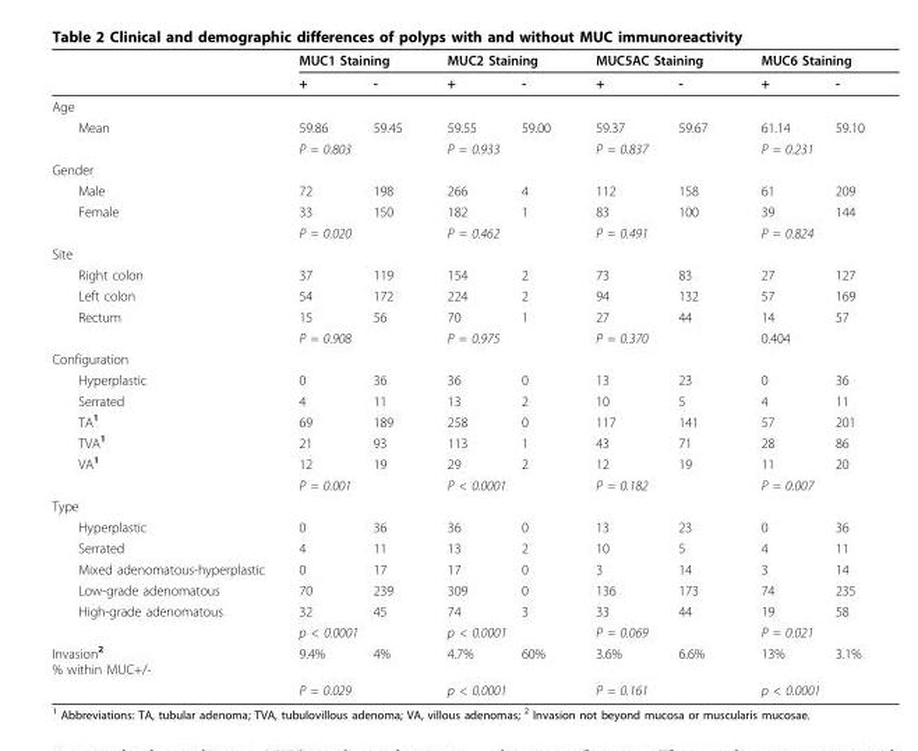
<table><thead><tr><td rowspan="2"></td><td colspan="2">MUC1 Staining</td><td colspan="2">MUC2 Staining</td><td colspan="2">MUC5AC Staining</td><td colspan="2">MUC6 Staining</td></tr><tr><td>+</td><td>-</td><td>+</td><td>-</td><td>+</td><td>-</td><td>+</td><td>-</td></tr></thead><tbody><tr><td colspan="9">Age</td></tr><tr><td rowspan="2">Mean</td><td>59.86</td><td>59.45</td><td>59.55</td><td>59.00</td><td>59.37</td><td>59.67</td><td>61.14</td><td>59.10</td></tr><tr><td colspan="2">P = 0.803</td><td colspan="2">P = 0.933</td><td colspan="2">P = 0.837</td><td colspan="2">P = 0.231</td></tr><tr><td colspan="9">Gender</td></tr><tr><td>Male</td><td>72</td><td>198</td><td>266</td><td>4</td><td>112</td><td>158</td><td>61</td><td>209</td></tr><tr><td rowspan="2">Female</td><td>33</td><td>150</td><td>182</td><td>1</td><td>83</td><td>100</td><td>39</td><td>144</td></tr><tr><td colspan="2">P = 0.020</td><td colspan="2">P = 0.462</td><td colspan="2">P = 0.491</td><td colspan="2">P = 0.824</td></tr><tr><td colspan="9">Site</td></tr><tr><td>Right colon</td><td>37</td><td>119</td><td>154</td><td>2</td><td>73</td><td>83</td><td>27</td><td>127</td></tr><tr><td>Left colon</td><td>54</td><td>172</td><td>224</td><td>2</td><td>94</td><td>132</td><td>57</td><td>169</td></tr><tr><td rowspan="2">Rectum</td><td>15</td><td>56</td><td>70</td><td>1</td><td>27</td><td>44</td><td>14</td><td>57</td></tr><tr><td colspan="2">P = 0.908</td><td colspan="2">P = 0.975</td><td colspan="2">P = 0.370</td><td colspan="2">0.404</td></tr><tr><td colspan="9">Configuration</td></tr><tr><td>Hyperplastic</td><td>0</td><td>36</td><td>36</td><td>0</td><td>13</td><td>23</td><td>0</td><td>36</td></tr><tr><td>Serrated</td><td>4</td><td>11</td><td>13</td><td>2</td><td>10</td><td>5</td><td>4</td><td>11</td></tr><tr><td>TA<sup>1</sup></td><td>69</td><td>189</td><td>258</td><td>0</td><td>117</td><td>141</td><td>57</td><td>201</td></tr><tr><td>TVA<sup>1</sup></td><td>21</td><td>93</td><td>113</td><td>1</td><td>43</td><td>71</td><td>28</td><td>86</td></tr><tr><td rowspan="2">VA<sup>1</sup></td><td>12</td><td>19</td><td>29</td><td>2</td><td>12</td><td>19</td><td>11</td><td>20</td></tr><tr><td colspan="2">P = 0.001</td><td colspan="2">P &lt; 0.0001</td><td colspan="2">P = 0.182</td><td colspan="2">P = 0.007</td></tr><tr><td colspan="9">Type</td></tr><tr><td>Hyperplastic</td><td>0</td><td>36</td><td>36</td><td>0</td><td>13</td><td>23</td><td>0</td><td>36</td></tr><tr><td>Serrated</td><td>4</td><td>11</td><td>13</td><td>2</td><td>10</td><td>5</td><td>4</td><td>11</td></tr><tr><td>Mixed adenomatous-hyperplastic</td><td>0</td><td>17</td><td>17</td><td>0</td><td>3</td><td>14</td><td>3</td><td>14</td></tr><tr><td>Low-grade adenomatous</td><td>70</td><td>239</td><td>309</td><td>0</td><td>136</td><td>173</td><td>74</td><td>235</td></tr><tr><td rowspan="2">High-grade adenomatous</td><td>32</td><td>45</td><td>74</td><td>3</td><td>33</td><td>44</td><td>19</td><td>58</td></tr><tr><td colspan="2">p &lt; 0.0001</td><td colspan="2">p &lt; 0.0001</td><td colspan="2">P = 0.069</td><td colspan="2">P = 0.021</td></tr><tr><td rowspan="2">Invasion<sup>2</sup> % within MUC+/-</td><td>9.4%</td><td>4%</td><td>4.7%</td><td>60%</td><td>3.6%</td><td>6.6%</td><td>13%</td><td>3.1%</td></tr><tr><td colspan="2">P = 0.029</td><td colspan="2">p &lt; 0.0001</td><td colspan="2">P = 0.161</td><td colspan="2">p &lt; 0.0001</td></tr></tbody></table>